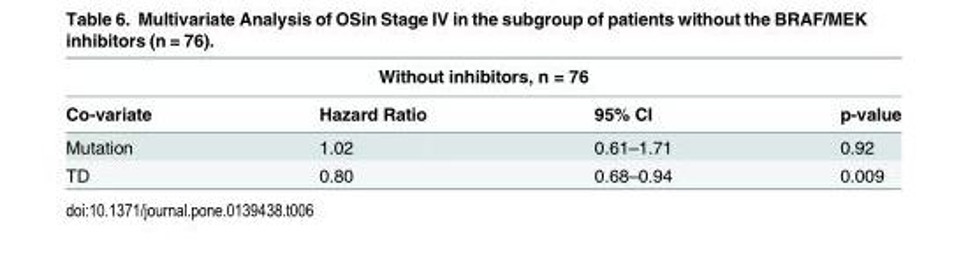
<table><thead><tr><td colspan="4">Without inhibitors, n = 76</td></tr><tr><td>Co-variate</td><td>Hazard Ratio</td><td>95% CI</td><td>p-value</td></tr></thead><tbody><tr><td>Mutation</td><td>1.02</td><td>0.61–1.71</td><td>0.92</td></tr><tr><td>TD</td><td>0.80</td><td>0.68–0.94</td><td>0.009</td></tr></tbody></table>